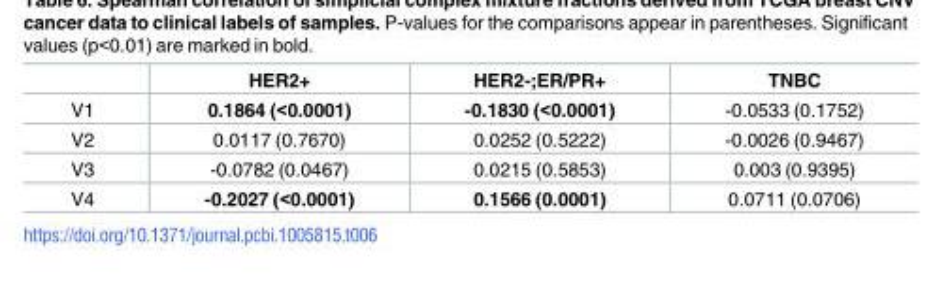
<table><thead><tr><td></td><td>HER2+</td><td>HER2-;ER/PR+</td><td>TNBC</td></tr></thead><tbody><tr><td>V1</td><td>0.1864 (&lt;0.0001)</td><td>-0.1830 (&lt;0.0001)</td><td>-0.0533 (0.1752)</td></tr><tr><td>V2</td><td>0.0117 (0.7670)</td><td>0.0252 (0.5222)</td><td>-0.0026 (0.9467)</td></tr><tr><td>V3</td><td>-0.0782 (0.0467)</td><td>0.0215 (0.5853)</td><td>0.003 (0.9395)</td></tr><tr><td>V4</td><td>-0.2027 (&lt;0.0001)</td><td>0.1566 (0.0001)</td><td>0.0711 (0.0706)</td></tr></tbody></table>